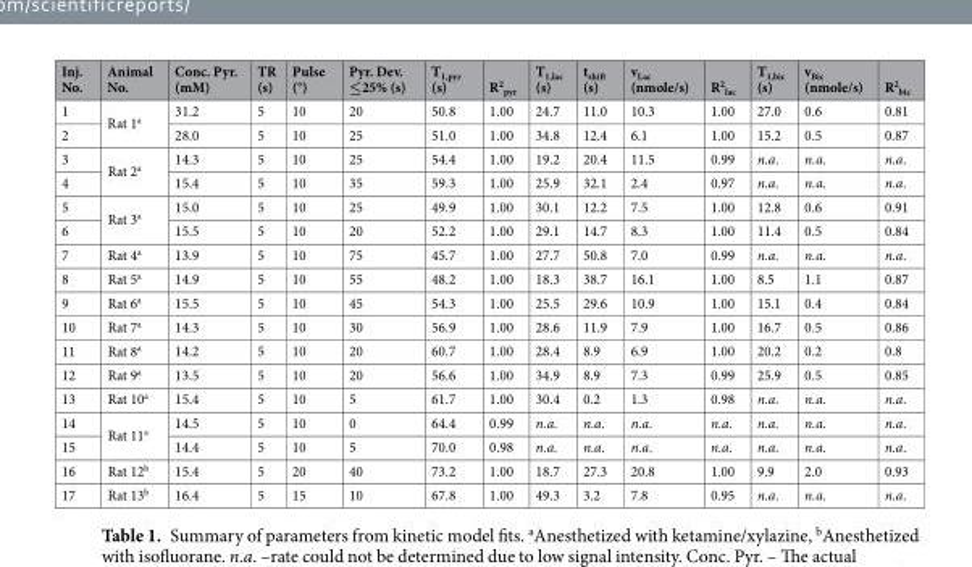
<table><thead><tr><td>Inj. No.</td><td>Animal No.</td><td>Conc. Pyr. (mM)</td><td>TR (s)</td><td>Pulse (°)</td><td>Pyr. Dev. ≤25% (s)</td><td>T<sub>1,pyr</sub> (s)</td><td>R<sup>2</sup> <sub>pyr</sub></td><td>T<sub>1,lac</sub> (s)</td><td>t<sub>shift</sub> (s)</td><td>v<sub>Lac</sub> (nmole/s)</td><td>R<sup>2</sup> <sub>lac</sub></td><td>T<sub>1,bic</sub> (s)</td><td>v<sub>Bic</sub> (nmole/s)</td><td>R<sup>2</sup> <sub>bic</sub></td></tr></thead><tbody><tr><td>1</td><td rowspan="2">Rat 1<sup>a</sup></td><td>31.2</td><td>5</td><td>10</td><td>20</td><td>50.8</td><td>1.00</td><td>24.7</td><td>11.0</td><td>10.3</td><td>1.00</td><td>27.0</td><td>0.6</td><td>0.81</td></tr><tr><td>2</td><td>28.0</td><td>5</td><td>10</td><td>25</td><td>51.0</td><td>1.00</td><td>34.8</td><td>12.4</td><td>6.1</td><td>1.00</td><td>15.2</td><td>0.5</td><td>0.87</td></tr><tr><td>3</td><td rowspan="2">Rat 2<sup>a</sup></td><td>14.3</td><td>5</td><td>10</td><td>25</td><td>54.4</td><td>1.00</td><td>19.2</td><td>20.4</td><td>11.5</td><td>0.99</td><td>n.a.</td><td>n.a.</td><td>n.a.</td></tr><tr><td>4</td><td>15.4</td><td>5</td><td>10</td><td>35</td><td>59.3</td><td>1.00</td><td>25.9</td><td>32.1</td><td>2.4</td><td>0.97</td><td>n.a.</td><td>n.a.</td><td>n.a.</td></tr><tr><td>5</td><td rowspan="2">Rat 3<sup>a</sup></td><td>15.0</td><td>5</td><td>10</td><td>25</td><td>49.9</td><td>1.00</td><td>30.1</td><td>12.2</td><td>7.5</td><td>1.00</td><td>12.8</td><td>0.6</td><td>0.91</td></tr><tr><td>6</td><td>15.5</td><td>5</td><td>10</td><td>20</td><td>52.2</td><td>1.00</td><td>29.1</td><td>14.7</td><td>8.3</td><td>1.00</td><td>11.4</td><td>0.5</td><td>0.84</td></tr><tr><td>7</td><td>Rat 4<sup>a</sup></td><td>13.9</td><td>5</td><td>10</td><td>75</td><td>45.7</td><td>1.00</td><td>27.7</td><td>50.8</td><td>7.0</td><td>0.99</td><td>n.a.</td><td>n.a.</td><td>n.a.</td></tr><tr><td>8</td><td>Rat 5<sup>a</sup></td><td>14.9</td><td>5</td><td>10</td><td>55</td><td>48.2</td><td>1.00</td><td>18.3</td><td>38.7</td><td>16.1</td><td>1.00</td><td>8.5</td><td>1.1</td><td>0.87</td></tr><tr><td>9</td><td>Rat 6<sup>a</sup></td><td>15.5</td><td>5</td><td>10</td><td>45</td><td>54.3</td><td>1.00</td><td>25.5</td><td>29.6</td><td>10.9</td><td>1.00</td><td>15.1</td><td>0.4</td><td>0.84</td></tr><tr><td>10</td><td>Rat 7<sup>a</sup></td><td>14.3</td><td>5</td><td>10</td><td>30</td><td>56.9</td><td>1.00</td><td>28.6</td><td>11.9</td><td>7.9</td><td>1.00</td><td>16.7</td><td>0.5</td><td>0.86</td></tr><tr><td>11</td><td>Rat 8<sup>a</sup></td><td>14.2</td><td>5</td><td>10</td><td>20</td><td>60.7</td><td>1.00</td><td>28.4</td><td>8.9</td><td>6.9</td><td>1.00</td><td>20.2</td><td>0.2</td><td>0.8</td></tr><tr><td>12</td><td>Rat 9<sup>a</sup></td><td>13.5</td><td>5</td><td>10</td><td>20</td><td>56.6</td><td>1.00</td><td>34.9</td><td>8.9</td><td>7.3</td><td>0.99</td><td>25.9</td><td>0.5</td><td>0.85</td></tr><tr><td>13</td><td>Rat 10<sup>a</sup></td><td>15.4</td><td>5</td><td>10</td><td>5</td><td>61.7</td><td>1.00</td><td>30.4</td><td>0.2</td><td>1.3</td><td>0.98</td><td>n.a.</td><td>n.a.</td><td>n.a.</td></tr><tr><td>14</td><td rowspan="2">Rat 11<sup>a</sup></td><td>14.5</td><td>5</td><td>10</td><td>0</td><td>64.4</td><td>0.99</td><td>n.a.</td><td>n.a.</td><td>n.a.</td><td>n.a.</td><td>n.a.</td><td>n.a.</td><td>n.a.</td></tr><tr><td>15</td><td>14.4</td><td>5</td><td>10</td><td>5</td><td>70.0</td><td>0.98</td><td>n.a.</td><td>n.a.</td><td>n.a.</td><td>n.a.</td><td>n.a.</td><td>n.a.</td><td>n.a.</td></tr><tr><td>16</td><td>Rat 12<sup>b</sup></td><td>15.4</td><td>5</td><td>20</td><td>40</td><td>73.2</td><td>1.00</td><td>18.7</td><td>27.3</td><td>20.8</td><td>1.00</td><td>9.9</td><td>2.0</td><td>0.93</td></tr><tr><td>17</td><td>Rat 13<sup>b</sup></td><td>16.4</td><td>5</td><td>15</td><td>10</td><td>67.8</td><td>1.00</td><td>49.3</td><td>3.2</td><td>7.8</td><td>0.95</td><td>n.a.</td><td>n.a.</td><td>n.a.</td></tr></tbody></table>